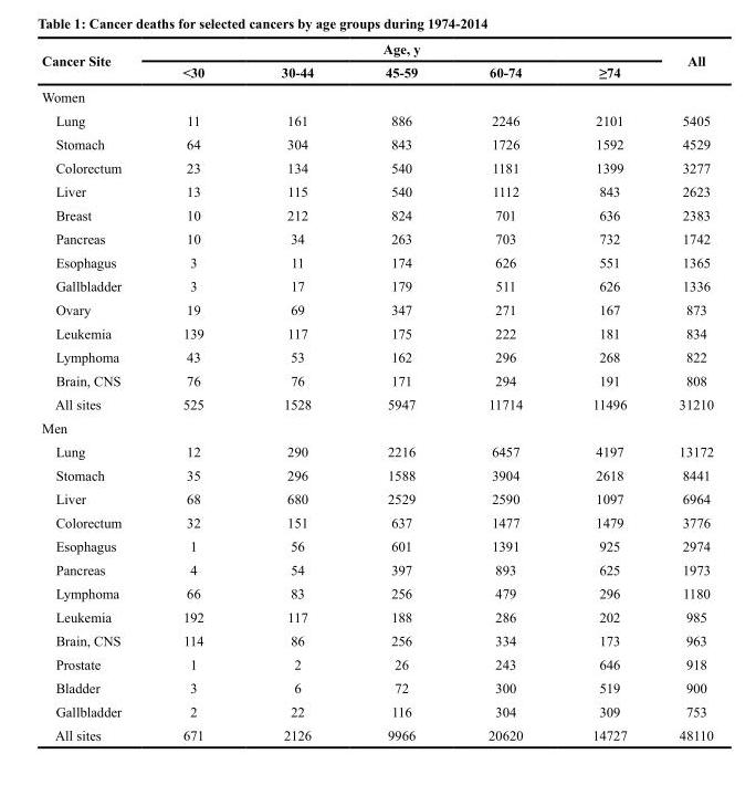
<table><thead><tr><td rowspan="2">Cancer Site</td><td colspan="5">Age, y</td><td rowspan="2">All</td></tr><tr><td>&lt;30</td><td>30-44</td><td>45-59</td><td>60-74</td><td>≥74</td></tr></thead><tbody><tr><td colspan="7">Women</td></tr><tr><td>Lung</td><td>11</td><td>161</td><td>886</td><td>2246</td><td>2101</td><td>5405</td></tr><tr><td>Stomach</td><td>64</td><td>304</td><td>843</td><td>1726</td><td>1592</td><td>4529</td></tr><tr><td>Colorectum</td><td>23</td><td>134</td><td>540</td><td>1181</td><td>1399</td><td>3277</td></tr><tr><td>Liver</td><td>13</td><td>115</td><td>540</td><td>1112</td><td>843</td><td>2623</td></tr><tr><td>Breast</td><td>10</td><td>212</td><td>824</td><td>701</td><td>636</td><td>2383</td></tr><tr><td>Pancreas</td><td>10</td><td>34</td><td>263</td><td>703</td><td>732</td><td>1742</td></tr><tr><td>Esophagus</td><td>3</td><td>11</td><td>174</td><td>626</td><td>551</td><td>1365</td></tr><tr><td>Gallbladder</td><td>3</td><td>17</td><td>179</td><td>511</td><td>626</td><td>1336</td></tr><tr><td>Ovary</td><td>19</td><td>69</td><td>347</td><td>271</td><td>167</td><td>873</td></tr><tr><td>Leukemia</td><td>139</td><td>117</td><td>175</td><td>222</td><td>181</td><td>834</td></tr><tr><td>Lymphoma</td><td>43</td><td>53</td><td>162</td><td>296</td><td>268</td><td>822</td></tr><tr><td>Brain, CNS</td><td>76</td><td>76</td><td>171</td><td>294</td><td>191</td><td>808</td></tr><tr><td>All sites</td><td>525</td><td>1528</td><td>5947</td><td>11714</td><td>11496</td><td>31210</td></tr><tr><td colspan="7">Men</td></tr><tr><td>Lung</td><td>12</td><td>290</td><td>2216</td><td>6457</td><td>4197</td><td>13172</td></tr><tr><td>Stomach</td><td>35</td><td>296</td><td>1588</td><td>3904</td><td>2618</td><td>8441</td></tr><tr><td>Liver</td><td>68</td><td>680</td><td>2529</td><td>2590</td><td>1097</td><td>6964</td></tr><tr><td>Colorectum</td><td>32</td><td>151</td><td>637</td><td>1477</td><td>1479</td><td>3776</td></tr><tr><td>Esophagus</td><td>1</td><td>56</td><td>601</td><td>1391</td><td>925</td><td>2974</td></tr><tr><td>Pancreas</td><td>4</td><td>54</td><td>397</td><td>893</td><td>625</td><td>1973</td></tr><tr><td>Lymphoma</td><td>66</td><td>83</td><td>256</td><td>479</td><td>296</td><td>1180</td></tr><tr><td>Leukemia</td><td>192</td><td>117</td><td>188</td><td>286</td><td>202</td><td>985</td></tr><tr><td>Brain, CNS</td><td>114</td><td>86</td><td>256</td><td>334</td><td>173</td><td>963</td></tr><tr><td>Prostate</td><td>1</td><td>2</td><td>26</td><td>243</td><td>646</td><td>918</td></tr><tr><td>Bladder</td><td>3</td><td>6</td><td>72</td><td>300</td><td>519</td><td>900</td></tr><tr><td>Gallbladder</td><td>2</td><td>22</td><td>116</td><td>304</td><td>309</td><td>753</td></tr><tr><td>All sites</td><td>671</td><td>2126</td><td>9966</td><td>20620</td><td>14727</td><td>48110</td></tr></tbody></table>